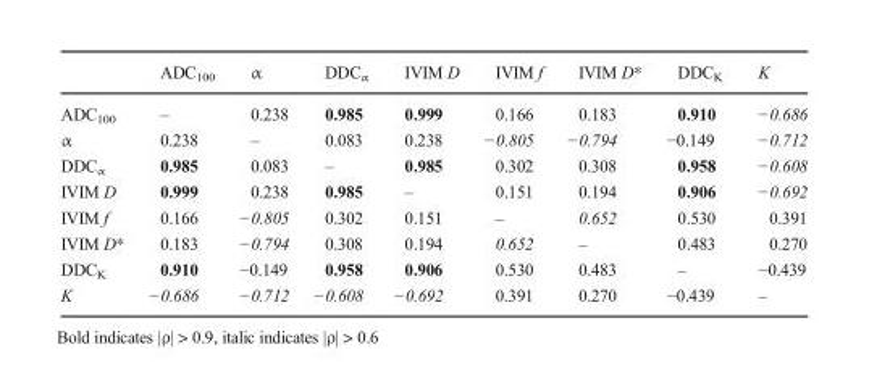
<table><thead><tr><td></td><td>ADC<sub>100</sub></td><td>α</td><td>DDC<sub>α</sub></td><td>IVIM D</td><td>IVIM f</td><td>IVIM D*</td><td>DDC<sub>K</sub></td><td>K</td></tr></thead><tbody><tr><td>ADC<sub>100</sub></td><td>–</td><td>0.238</td><td>0.985</td><td>0.999</td><td>0.166</td><td>0.183</td><td>0.910</td><td>−0.686</td></tr><tr><td>α</td><td>0.238</td><td>–</td><td>0.083</td><td>0.238</td><td>−0.805</td><td>−0.794</td><td>−0.149</td><td>−0.712</td></tr><tr><td>DDC<sub>α</sub></td><td>0.985</td><td>0.083</td><td>–</td><td>0.985</td><td>0.302</td><td>0.308</td><td>0.958</td><td>−0.608</td></tr><tr><td>IVIM D</td><td>0.999</td><td>0.238</td><td>0.985</td><td>–</td><td>0.151</td><td>0.194</td><td>0.906</td><td>−0.692</td></tr><tr><td>IVIM f</td><td>0.166</td><td>−0.805</td><td>0.302</td><td>0.151</td><td>–</td><td>0.652</td><td>0.530</td><td>0.391</td></tr><tr><td>IVIM D*</td><td>0.183</td><td>−0.794</td><td>0.308</td><td>0.194</td><td>0.652</td><td>–</td><td>0.483</td><td>0.270</td></tr><tr><td>DDC<sub>K</sub></td><td>0.910</td><td>−0.149</td><td>0.958</td><td>0.906</td><td>0.530</td><td>0.483</td><td>–</td><td>−0.439</td></tr><tr><td>K</td><td>−0.686</td><td>−0.712</td><td>−0.608</td><td>−0.692</td><td>0.391</td><td>0.270</td><td>−0.439</td><td>–</td></tr></tbody></table>